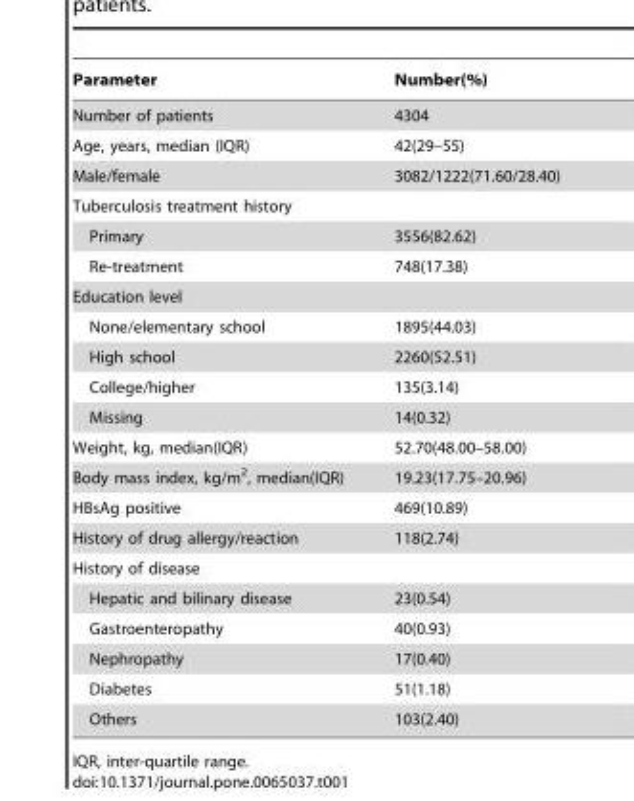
<table><thead><tr><td>Parameter</td><td>Number(%)</td></tr></thead><tbody><tr><td>Number of patients</td><td>4304</td></tr><tr><td>Age, years, median (IQR)</td><td>42(29–55)</td></tr><tr><td>Male/female</td><td>3082/1222(71.60/28.40)</td></tr><tr><td colspan="2">Tuberculosis treatment history</td></tr><tr><td>Primary</td><td>3556(82.62)</td></tr><tr><td>Re-treatment</td><td>748(17.38)</td></tr><tr><td colspan="2">Education level</td></tr><tr><td>None/elementary school</td><td>1895(44.03)</td></tr><tr><td>High school</td><td>2260(52.51)</td></tr><tr><td>College/higher</td><td>135(3.14)</td></tr><tr><td>Missing</td><td>14(0.32)</td></tr><tr><td>Weight, kg, median(IQR)</td><td>52.70(48.00–58.00)</td></tr><tr><td>Body mass index, kg/m<sup>2</sup>, median(IQR)</td><td>19.23(17.75–20.96)</td></tr><tr><td>HBsAg positive</td><td>469(10.89)</td></tr><tr><td>History of drug allergy/reaction</td><td>118(2.74)</td></tr><tr><td colspan="2">History of disease</td></tr><tr><td>Hepatic and bilinary disease</td><td>23(0.54)</td></tr><tr><td>Gastroenteropathy</td><td>40(0.93)</td></tr><tr><td>Nephropathy</td><td>17(0.40)</td></tr><tr><td>Diabetes</td><td>51(1.18)</td></tr><tr><td>Others</td><td>103(2.40)</td></tr></tbody></table>